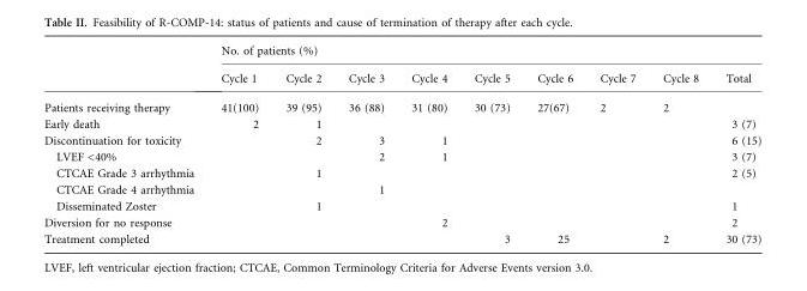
<table><thead><tr><td rowspan="2"></td><td colspan="9">No. of patients (%)</td></tr><tr><td>Cycle 1</td><td>Cycle 2</td><td>Cycle 3</td><td>Cycle 4</td><td>Cycle 5</td><td>Cycle 6</td><td>Cycle 7</td><td>Cycle 8</td><td>Total</td></tr></thead><tbody><tr><td>Patients receiving therapy</td><td>41(100)</td><td>39 (95)</td><td>36 (88)</td><td>31 (80)</td><td>30 (73)</td><td>27(67)</td><td>2</td><td>2</td><td></td></tr><tr><td>Early death</td><td>2</td><td>1</td><td></td><td></td><td></td><td></td><td></td><td></td><td>3 (7)</td></tr><tr><td>Discontinuation for toxicity</td><td></td><td>2</td><td>3</td><td>1</td><td></td><td></td><td></td><td></td><td>6 (15)</td></tr><tr><td>LVEF &lt;40%</td><td></td><td></td><td>2</td><td>1</td><td></td><td></td><td></td><td></td><td>3 (7)</td></tr><tr><td>CTCAE Grade 3 arrhythmia</td><td></td><td>1</td><td></td><td></td><td></td><td></td><td></td><td></td><td>2 (5)</td></tr><tr><td>CTCAE Grade 4 arrhythmia</td><td></td><td></td><td>1</td><td></td><td></td><td></td><td></td><td></td><td></td></tr><tr><td>Disseminated Zoster</td><td></td><td>1</td><td></td><td></td><td></td><td></td><td></td><td></td><td>1</td></tr><tr><td>Diversion for no response</td><td></td><td></td><td></td><td>2</td><td></td><td></td><td></td><td></td><td>2</td></tr><tr><td>Treatment completed</td><td></td><td></td><td></td><td></td><td>3</td><td>25</td><td></td><td>2</td><td>30 (73)</td></tr></tbody></table>